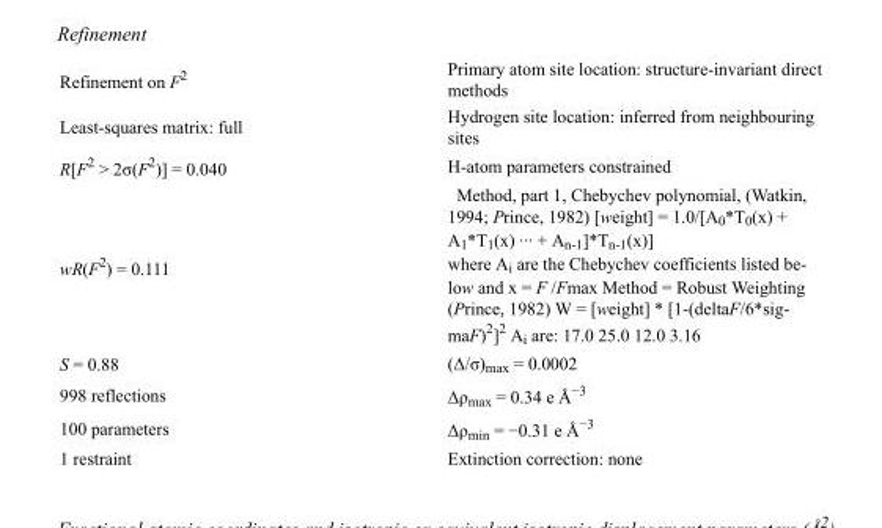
<table><tbody><tr><td>Refinement on F<sup>2</sup></td><td>Primary atom site location: structure-invariant direct methods</td></tr><tr><td>Least-squares matrix: full</td><td>Hydrogen site location: inferred from neighbouring sites</td></tr><tr><td>R[F<sup>2</sup> &gt; 2σ(F<sup>2</sup>)] = 0.040</td><td>H-atom parameters constrained</td></tr><tr><td>wR(F<sup>2</sup>) = 0.111</td><td>Method, part 1, Chebychev polynomial, (Watkin, 1994; Prince, 1982) [weight] = 1.0/[A0*T0(x) + A1*T1(x) ··· + An-1]*Tn-1(x)] where Ai are the Chebychev coefficients listed be- low and x = F /Fmax Method = Robust Weighting (Prince, 1982) W = [weight] * [1-(deltaF/6*sig- maF)2]2 Ai are: 17.0 25.0 12.0 3.16</td></tr><tr><td>S = 0.88</td><td>(Δ/σ)<sub>max</sub> = 0.0002</td></tr><tr><td>998 reflections</td><td>Δρ<sub>max</sub> = 0.34 e Å<sup>−3</sup></td></tr><tr><td>100 parameters</td><td>Δρ<sub>min</sub> = −0.31 e Å<sup>−3</sup></td></tr><tr><td>1 restraint</td><td>Extinction correction: none</td></tr></tbody></table>